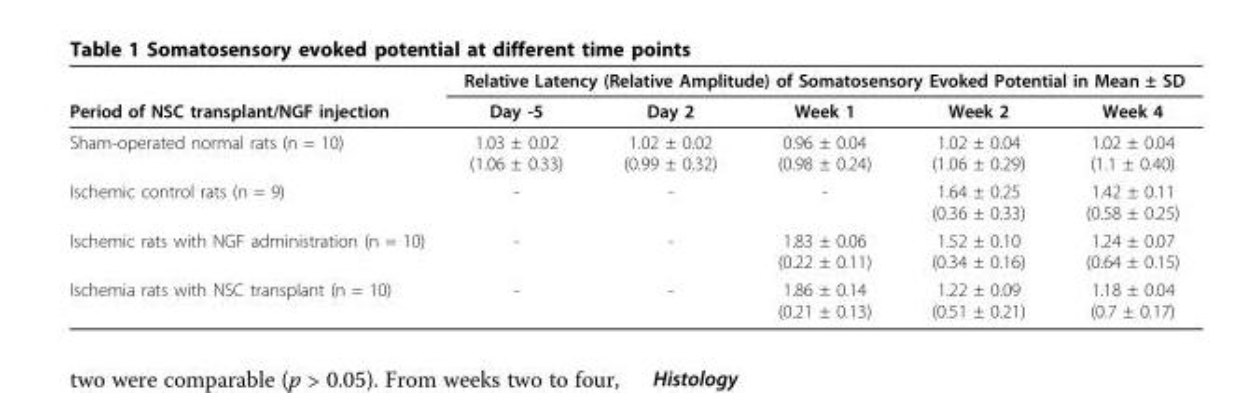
<table><thead><tr><td rowspan="2">Period of NSC transplant/NGF injection</td><td colspan="5">Relative Latency (Relative Amplitude) of Somatosensory Evoked Potential in Mean ± SD</td></tr><tr><td>Day -5</td><td>Day 2</td><td>Week 1</td><td>Week 2</td><td>Week 4</td></tr></thead><tbody><tr><td>Sham-operated normal rats (n = 10)</td><td>1.03 ± 0.02 (1.06 ± 0.33)</td><td>1.02 ± 0.02 (0.99 ± 0.32)</td><td>0.96 ± 0.04 (0.98 ± 0.24)</td><td>1.02 ± 0.04 (1.06 ± 0.29)</td><td>1.02 ± 0.04 (1.1 ± 0.40)</td></tr><tr><td>Ischemic control rats (n = 9)</td><td>-</td><td>-</td><td>-</td><td>1.64 ± 0.25 (0.36 ± 0.33)</td><td>1.42 ± 0.11 (0.58 ± 0.25)</td></tr><tr><td>Ischemic rats with NGF administration (n = 10)</td><td>-</td><td>-</td><td>1.83 ± 0.06 (0.22 ± 0.11)</td><td>1.52 ± 0.10 (0.34 ± 0.16)</td><td>1.24 ± 0.07 (0.64 ± 0.15)</td></tr><tr><td>Ischemia rats with NSC transplant (n = 10)</td><td>-</td><td>-</td><td>1.86 ± 0.14 (0.21 ± 0.13)</td><td>1.22 ± 0.09 (0.51 ± 0.21)</td><td>1.18 ± 0.04 (0.7 ± 0.17)</td></tr></tbody></table>